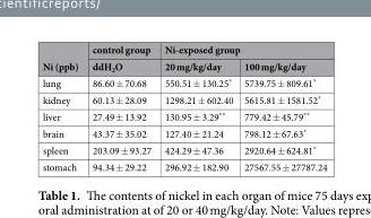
<table><thead><tr><td rowspan="2">Ni (ppb)</td><td rowspan="2">control group ddH<sub>2</sub>O</td><td colspan="2">Ni-exposed group</td></tr><tr><td>20 mg/kg/day</td><td>100 mg/kg/day</td></tr></thead><tbody><tr><td>lung</td><td>86.60 ± 70.68</td><td>550.51 ± 130.25*</td><td>5739.75 ± 809.61*</td></tr><tr><td>kidney</td><td>60.13 ± 28.09</td><td>1298.21 ± 602.40</td><td>5615.81 ± 1581.52*</td></tr><tr><td>liver</td><td>27.49 ± 13.92</td><td>130.95 ± 3.29**</td><td>779.42 ± 45.79**</td></tr><tr><td>brain</td><td>43.37 ± 35.02</td><td>127.40 ± 21.24</td><td>798.12 ± 67.63*</td></tr><tr><td>spleen</td><td>203.09 ± 93.27</td><td>424.29 ± 47.36</td><td>2920.64 ± 624.81*</td></tr><tr><td>stomach</td><td>94.34 ± 29.22</td><td>296.92 ± 182.90</td><td>27567.55 ± 27787.24</td></tr></tbody></table>